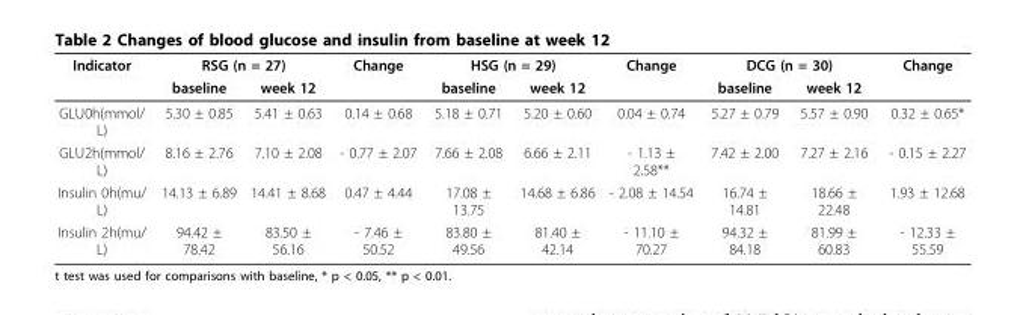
<table><thead><tr><td rowspan="2">Indicator</td><td colspan="2">RSG (n = 27)</td><td rowspan="2">Change</td><td colspan="2">HSG (n = 29)</td><td rowspan="2">Change</td><td colspan="2">DCG (n = 30)</td><td rowspan="2">Change</td></tr><tr><td>baseline</td><td>week 12</td><td>baseline</td><td>week 12</td><td>baseline</td><td>week 12</td></tr></thead><tbody><tr><td>GLU0h(mmol/ L)</td><td>5.30 ± 0.85</td><td>5.41 ± 0.63</td><td>0.14 ± 0.68</td><td>5.18 ± 0.71</td><td>5.20 ± 0.60</td><td>0.04 ± 0.74</td><td>5.27 ± 0.79</td><td>5.57 ± 0.90</td><td>0.32 ± 0.65*</td></tr><tr><td>GLU2h(mmol/ L)</td><td>8.16 ± 2.76</td><td>7.10 ± 2.08</td><td>- 0.77 ± 2.07</td><td>7.66 ± 2.08</td><td>6.66 ± 2.11</td><td>- 1.13 ± 2.58**</td><td>7.42 ± 2.00</td><td>7.27 ± 2.16</td><td>- 0.15 ± 2.27</td></tr><tr><td>Insulin 0h(mu/ L)</td><td>14.13 ± 6.89</td><td>14.41 ± 8.68</td><td>0.47 ± 4.44</td><td>17.08 ± 13.75</td><td>14.68 ± 6.86</td><td>- 2.08 ± 14.54</td><td>16.74 ± 14.81</td><td>18.66 ± 22.48</td><td>1.93 ± 12.68</td></tr><tr><td>Insulin 2h(mu/ L)</td><td>94.42 ± 78.42</td><td>83.50 ± 56.16</td><td>- 7.46 ± 50.52</td><td>83.80 ± 49.56</td><td>81.40 ± 42.14</td><td>- 11.10 ± 70.27</td><td>94.32 ± 84.18</td><td>81.99 ± 60.83</td><td>- 12.33 ± 55.59</td></tr></tbody></table>